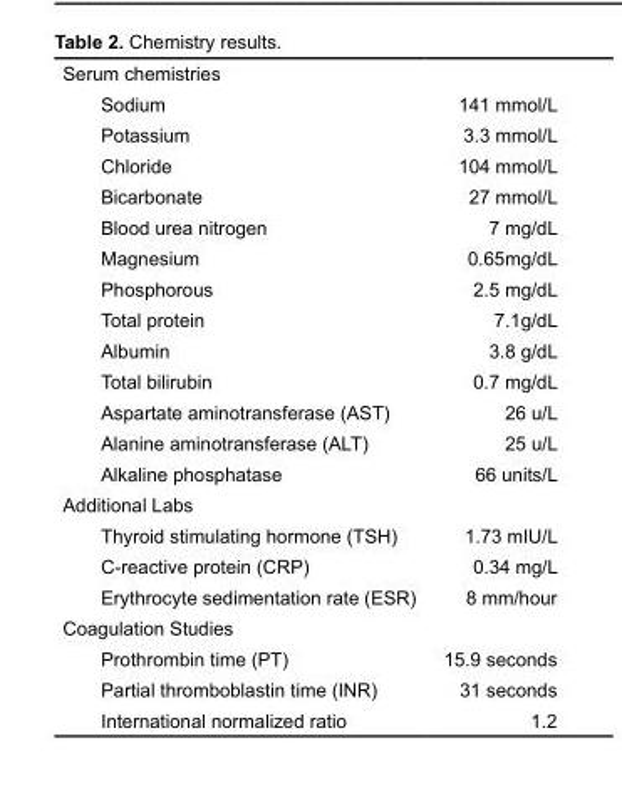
<table><tbody><tr><td colspan="2">Serum chemistries</td></tr><tr><td>Sodium</td><td>141 mmol/L</td></tr><tr><td>Potassium</td><td>3.3 mmol/L</td></tr><tr><td>Chloride</td><td>104 mmol/L</td></tr><tr><td>Bicarbonate</td><td>27 mmol/L</td></tr><tr><td>Blood urea nitrogen</td><td>7 mg/dL</td></tr><tr><td>Magnesium</td><td>0.65mg/dL</td></tr><tr><td>Phosphorous</td><td>2.5 mg/dL</td></tr><tr><td>Total protein</td><td>7.1g/dL</td></tr><tr><td>Albumin</td><td>3.8 g/dL</td></tr><tr><td>Total bilirubin</td><td>0.7 mg/dL</td></tr><tr><td>Aspartate aminotransferase (AST)</td><td>26 u/L</td></tr><tr><td>Alanine aminotransferase (ALT)</td><td>25 u/L</td></tr><tr><td>Alkaline phosphatase</td><td>66 units/L</td></tr><tr><td colspan="2">Additional Labs</td></tr><tr><td>Thyroid stimulating hormone (TSH)</td><td>1.73 mIU/L</td></tr><tr><td>C-reactive protein (CRP)</td><td>0.34 mg/L</td></tr><tr><td>Erythrocyte sedimentation rate (ESR)</td><td>8 mm/hour</td></tr><tr><td colspan="2">Coagulation Studies</td></tr><tr><td>Prothrombin time (PT)</td><td>15.9 seconds</td></tr><tr><td>Partial thromboblastin time (INR)</td><td>31 seconds</td></tr><tr><td>International normalized ratio</td><td>1.2</td></tr></tbody></table>